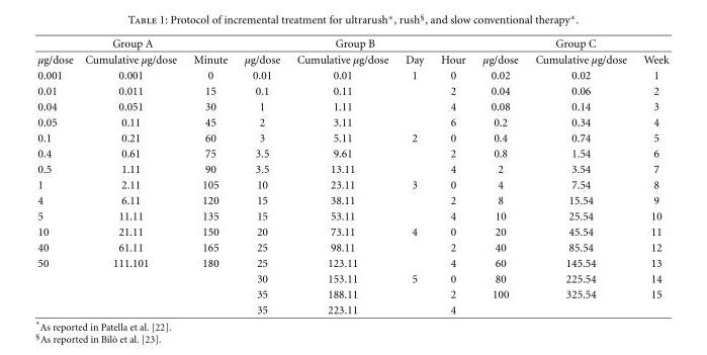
<table><thead><tr><td colspan="3">Group A</td><td colspan="4">Group B</td><td colspan="3">Group C</td></tr><tr><td>µg/dose</td><td>Cumulative µg/dose</td><td>Minute</td><td>µg/dose</td><td>Cumulative µg/dose</td><td>Day</td><td>Hour</td><td>µg/dose</td><td>Cumulative µg/dose</td><td>Week</td></tr></thead><tbody><tr><td>0.001</td><td>0.001</td><td>0</td><td>0.01</td><td>0.01</td><td>1</td><td>0</td><td>0.02</td><td>0.02</td><td>1</td></tr><tr><td>0.01</td><td>0.011</td><td>15</td><td>0.1</td><td>0.11</td><td></td><td>2</td><td>0.04</td><td>0.06</td><td>2</td></tr><tr><td>0.04</td><td>0.051</td><td>30</td><td>1</td><td>1.11</td><td></td><td>4</td><td>0.08</td><td>0.14</td><td>3</td></tr><tr><td>0.05</td><td>0.11</td><td>45</td><td>2</td><td>3.11</td><td></td><td>6</td><td>0.2</td><td>0.34</td><td>4</td></tr><tr><td>0.1</td><td>0.21</td><td>60</td><td>3</td><td>5.11</td><td>2</td><td>0</td><td>0.4</td><td>0.74</td><td>5</td></tr><tr><td>0.4</td><td>0.61</td><td>75</td><td>3.5</td><td>9.61</td><td></td><td>2</td><td>0.8</td><td>1.54</td><td>6</td></tr><tr><td>0.5</td><td>1.11</td><td>90</td><td>3.5</td><td>13.11</td><td></td><td>4</td><td>2</td><td>3.54</td><td>7</td></tr><tr><td>1</td><td>2.11</td><td>105</td><td>10</td><td>23.11</td><td>3</td><td>0</td><td>4</td><td>7.54</td><td>8</td></tr><tr><td>4</td><td>6.11</td><td>120</td><td>15</td><td>38.11</td><td></td><td>2</td><td>8</td><td>15.54</td><td>9</td></tr><tr><td>5</td><td>11.11</td><td>135</td><td>15</td><td>53.11</td><td></td><td>4</td><td>10</td><td>25.54</td><td>10</td></tr><tr><td>10</td><td>21.11</td><td>150</td><td>20</td><td>73.11</td><td>4</td><td>0</td><td>20</td><td>45.54</td><td>11</td></tr><tr><td>40</td><td>61.11</td><td>165</td><td>25</td><td>98.11</td><td></td><td>2</td><td>40</td><td>85.54</td><td>12</td></tr><tr><td rowspan="4">50</td><td>111.101</td><td>180</td><td>25</td><td>123.11</td><td></td><td>4</td><td>60</td><td>145.54</td><td>13</td></tr><tr><td></td><td></td><td>30</td><td>153.11</td><td>5</td><td>0</td><td>80</td><td>225.54</td><td>14</td></tr><tr><td></td><td></td><td>35</td><td>188.11</td><td></td><td>2</td><td>100</td><td>325.54</td><td>15</td></tr><tr><td></td><td></td><td>35</td><td>223.11</td><td></td><td>4</td><td></td><td></td><td></td></tr></tbody></table>